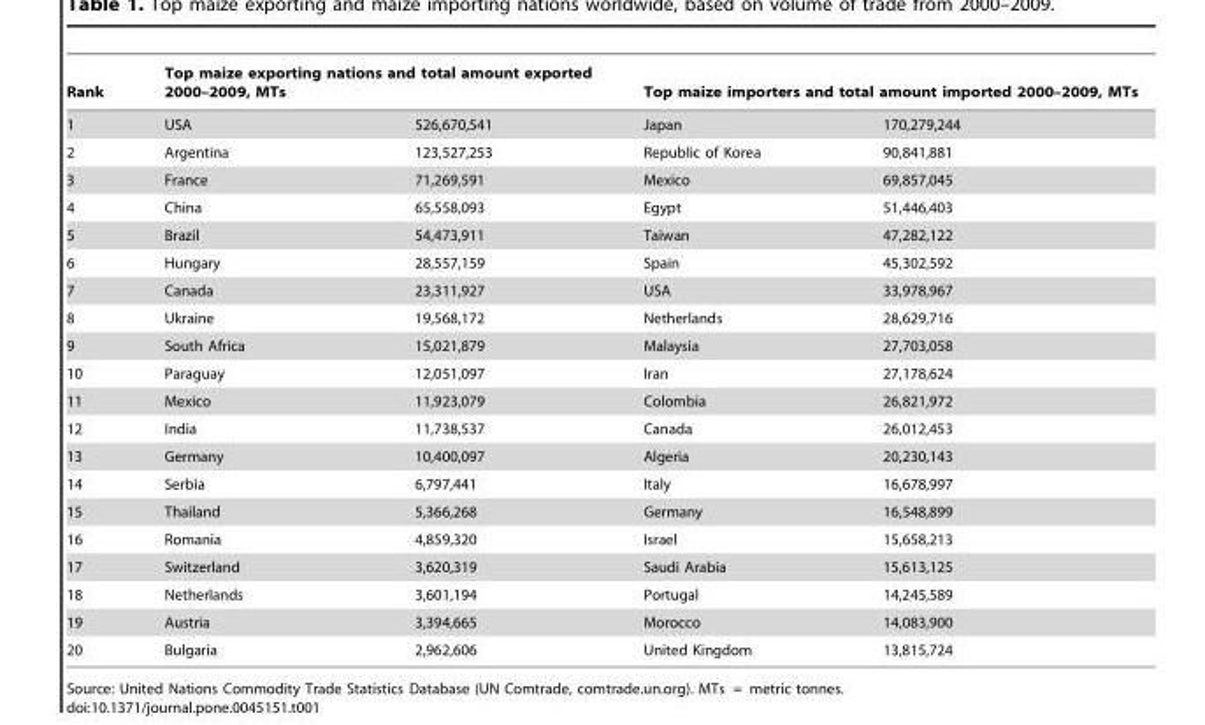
<table><thead><tr><td rowspan="2">Rank 1</td><td colspan="2">Top maize exporting nations and total amount exported 2000–2009, MTs</td><td colspan="2">Top maize importers and total amount imported 2000–2009, MTs</td></tr><tr><td>USA</td><td>526,670,541</td><td>Japan</td><td>170,279,244</td></tr></thead><tbody><tr><td>2</td><td>Argentina</td><td>123,527,253</td><td>Republic of Korea</td><td>90,841,881</td></tr><tr><td>3</td><td>France</td><td>71,269,591</td><td>Mexico</td><td>69,857,045</td></tr><tr><td>4</td><td>China</td><td>65,558,093</td><td>Egypt</td><td>51,446,403</td></tr><tr><td>5</td><td>Brazil</td><td>54,473,911</td><td>Taiwan</td><td>47,282,122</td></tr><tr><td>6</td><td>Hungary</td><td>28,557,159</td><td>Spain</td><td>45,302,592</td></tr><tr><td>7</td><td>Canada</td><td>23,311,927</td><td>USA</td><td>33,978,967</td></tr><tr><td>8</td><td>Ukraine</td><td>19,568,172</td><td>Netherlands</td><td>28,629,716</td></tr><tr><td>9</td><td>South Africa</td><td>15,021,879</td><td>Malaysia</td><td>27,703,058</td></tr><tr><td>10</td><td>Paraguay</td><td>12,051,097</td><td>Iran</td><td>27,178,624</td></tr><tr><td>11</td><td>Mexico</td><td>11,923,079</td><td>Colombia</td><td>26,821,972</td></tr><tr><td>12</td><td>India</td><td>11,738,537</td><td>Canada</td><td>26,012,453</td></tr><tr><td>13</td><td>Germany</td><td>10,400,097</td><td>Algeria</td><td>20,230,143</td></tr><tr><td>14</td><td>Serbia</td><td>6,797,441</td><td>Italy</td><td>16,678,997</td></tr><tr><td>15</td><td>Thailand</td><td>5,366,268</td><td>Germany</td><td>16,548,899</td></tr><tr><td>16</td><td>Romania</td><td>4,859,320</td><td>Israel</td><td>15,658,213</td></tr><tr><td>17</td><td>Switzerland</td><td>3,620,319</td><td>Saudi Arabia</td><td>15,613,125</td></tr><tr><td>18</td><td>Netherlands</td><td>3,601,194</td><td>Portugal</td><td>14,245,589</td></tr><tr><td>19</td><td>Austria</td><td>3,394,665</td><td>Morocco</td><td>14,083,900</td></tr><tr><td>20</td><td>Bulgaria</td><td>2,962,606</td><td>United Kingdom</td><td>13,815,724</td></tr></tbody></table>